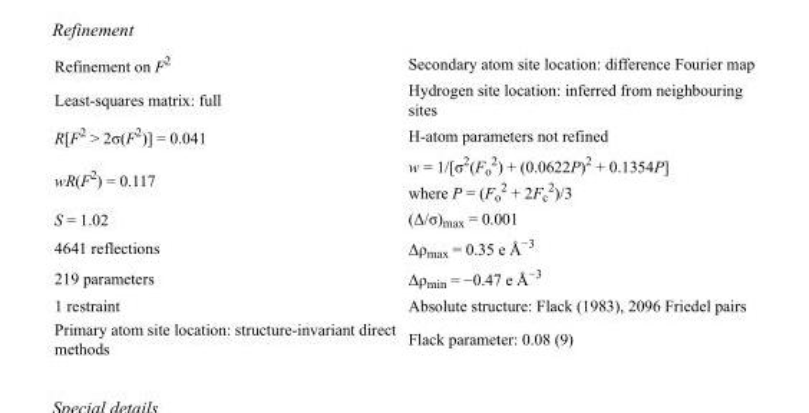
<table><tbody><tr><td>Refinement on F<sup>2</sup></td><td>Secondary atom site location: difference Fourier map</td></tr><tr><td>Least-squares matrix: full</td><td>Hydrogen site location: inferred from neighbouring sites</td></tr><tr><td>R[F<sup>2</sup> &gt; 2σ(F<sup>2</sup>)] = 0.041</td><td>H-atom parameters not refined</td></tr><tr><td>wR(F<sup>2</sup>) = 0.117</td><td>w = 1/[σ<sup>2</sup>(F<sub>o</sub> <sup>2</sup>) + (0.0622P)<sup>2</sup> + 0.1354P] where P = (F<sub>o</sub> <sup>2</sup> + 2F<sub>c</sub> <sup>2</sup>)/3</td></tr><tr><td>S = 1.02</td><td>(Δ/σ)<sub>max</sub> = 0.001</td></tr><tr><td>4641 reflections</td><td>Δρ<sub>max</sub> = 0.35 e Å<sup>−3</sup></td></tr><tr><td>219 parameters</td><td>Δρ<sub>min</sub> = −0.47 e Å<sup>−3</sup></td></tr><tr><td>1 restraint</td><td>Absolute structure: Flack (1983), 2096 Friedel pairs</td></tr><tr><td>Primary atom site location: structure-invariant direct methods</td><td>Flack parameter: 0.08 (9)</td></tr></tbody></table>